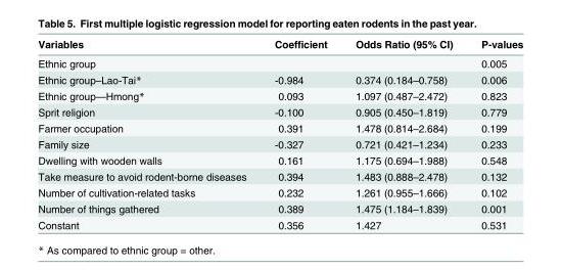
<table><thead><tr><td>Variables</td><td>Coefficient</td><td>Odds Ratio (95% CI)</td><td>P-values</td></tr></thead><tbody><tr><td>Ethnic group</td><td></td><td></td><td>0.005</td></tr><tr><td>Ethnic group–Lao-Tai*</td><td>-0.984</td><td>0.374 (0.184–0.758)</td><td>0.006</td></tr><tr><td>Ethnic group—Hmong*</td><td>0.093</td><td>1.097 (0.487–2.472)</td><td>0.823</td></tr><tr><td>Sprit religion</td><td>-0.100</td><td>0.905 (0.450–1.819)</td><td>0.779</td></tr><tr><td>Farmer occupation</td><td>0.391</td><td>1.478 (0.814–2.684)</td><td>0.199</td></tr><tr><td>Family size</td><td>-0.327</td><td>0.721 (0.421–1.234)</td><td>0.233</td></tr><tr><td>Dwelling with wooden walls</td><td>0.161</td><td>1.175 (0.694–1.988)</td><td>0.548</td></tr><tr><td>Take measure to avoid rodent-borne diseases</td><td>0.394</td><td>1.483 (0.888–2.478)</td><td>0.132</td></tr><tr><td>Number of cultivation-related tasks</td><td>0.232</td><td>1.261 (0.955–1.666)</td><td>0.102</td></tr><tr><td>Number of things gathered</td><td>0.389</td><td>1.475 (1.184–1.839)</td><td>0.001</td></tr><tr><td>Constant</td><td>0.356</td><td>1.427</td><td>0.531</td></tr></tbody></table>